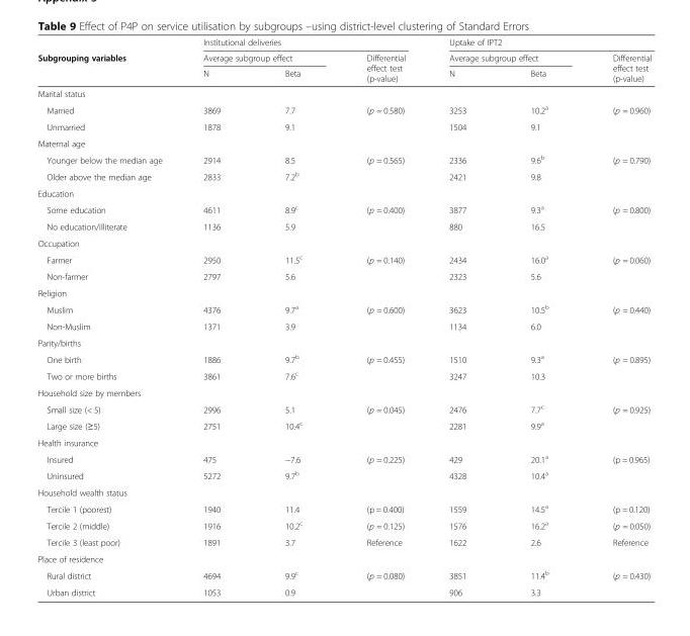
<table><thead><tr><td rowspan="3">Subgrouping variables</td><td colspan="3">Institutional deliveries</td><td colspan="3">Uptake of IPT2</td></tr><tr><td colspan="2">Average subgroup effect</td><td rowspan="2">Differential effect test (p-value)</td><td colspan="2">Average subgroup effect</td><td rowspan="2">Differential effect test (p-value)</td></tr><tr><td>N</td><td>Beta</td><td>N</td><td>Beta</td></tr></thead><tbody><tr><td colspan="7">Marital status</td></tr><tr><td>Married</td><td>3869</td><td>7.7</td><td>(p = 0.580)</td><td>3253</td><td>10.2<sup>a</sup></td><td>(p = 0.960)</td></tr><tr><td>Unmarried</td><td>1878</td><td>9.1</td><td></td><td>1504</td><td>9.1</td><td></td></tr><tr><td colspan="7">Maternal age</td></tr><tr><td>Younger below the median age</td><td>2914</td><td>8.5</td><td>(p = 0.565)</td><td>2336</td><td>9.6<sup>b</sup></td><td>(p = 0.790)</td></tr><tr><td>Older above the median age</td><td>2833</td><td>7.2<sup>b</sup></td><td></td><td>2421</td><td>9.8</td><td></td></tr><tr><td colspan="7">Education</td></tr><tr><td>Some education</td><td>4611</td><td>8.9<sup>c</sup></td><td>(p = 0.400)</td><td>3877</td><td>9.3<sup>a</sup></td><td>(p = 0.800)</td></tr><tr><td>No education/illiterate</td><td>1136</td><td>5.9</td><td></td><td>880</td><td>16.5</td><td></td></tr><tr><td colspan="7">Occupation</td></tr><tr><td>Farmer</td><td>2950</td><td>11.5<sup>c</sup></td><td>(p = 0.140)</td><td>2434</td><td>16.0<sup>a</sup></td><td>(p = 0.060)</td></tr><tr><td>Non-farmer</td><td>2797</td><td>5.6</td><td></td><td>2323</td><td>5.6</td><td></td></tr><tr><td colspan="7">Religion</td></tr><tr><td>Muslim</td><td>4376</td><td>9.7<sup>a</sup></td><td>(p = 0.600)</td><td>3623</td><td>10.5<sup>b</sup></td><td>(p = 0.440)</td></tr><tr><td>Non-Muslim</td><td>1371</td><td>3.9</td><td></td><td>1134</td><td>6.0</td><td></td></tr><tr><td colspan="7">Parity/births</td></tr><tr><td>One birth</td><td>1886</td><td>9.7<sup>b</sup></td><td>(p = 0.455)</td><td>1510</td><td>9.3<sup>a</sup></td><td>(p = 0.895)</td></tr><tr><td>Two or more births</td><td>3861</td><td>7.6<sup>c</sup></td><td></td><td>3247</td><td>10.3</td><td></td></tr><tr><td colspan="7">Household size by members</td></tr><tr><td>Small size (&lt; 5)</td><td>2996</td><td>5.1</td><td>(p = 0.045)</td><td>2476</td><td>7.7<sup>c</sup></td><td>(p = 0.925)</td></tr><tr><td>Large size (≥5)</td><td>2751</td><td>10.4<sup>c</sup></td><td></td><td>2281</td><td>9.9<sup>a</sup></td><td></td></tr><tr><td colspan="7">Health insurance</td></tr><tr><td>Insured</td><td>475</td><td>−7.6</td><td>(p = 0.225)</td><td>429</td><td>20.1<sup>a</sup></td><td>(p = 0.965)</td></tr><tr><td>Uninsured</td><td>5272</td><td>9.7<sup>b</sup></td><td></td><td>4328</td><td>10.4<sup>a</sup></td><td></td></tr><tr><td colspan="7">Household wealth status</td></tr><tr><td>Tercile 1 (poorest)</td><td>1940</td><td>11.4</td><td>(p = 0.400)</td><td>1559</td><td>14.5<sup>a</sup></td><td>(p = 0.120)</td></tr><tr><td>Tercile 2 (middle)</td><td>1916</td><td>10.2<sup>c</sup></td><td>(p = 0.125)</td><td>1576</td><td>16.2<sup>a</sup></td><td>(p = 0.050)</td></tr><tr><td>Tercile 3 (least poor)</td><td>1891</td><td>3.7</td><td>Reference</td><td>1622</td><td>2.6</td><td>Reference</td></tr><tr><td colspan="7">Place of residence</td></tr><tr><td>Rural district</td><td>4694</td><td>9.9<sup>c</sup></td><td>(p = 0.080)</td><td>3851</td><td>11.4<sup>b</sup></td><td>(p = 0.430)</td></tr><tr><td>Urban district</td><td>1053</td><td>0.9</td><td></td><td>906</td><td>3.3</td><td></td></tr></tbody></table>